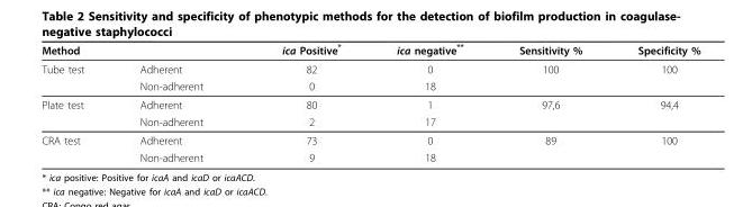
<table><thead><tr><td>Method</td><td></td><td>ica Positive*</td><td>ica negative**</td><td>Sensitivity %</td><td>Specificity %</td></tr></thead><tbody><tr><td rowspan="2">Tube test</td><td>Adherent</td><td>82</td><td>0</td><td>100</td><td>100</td></tr><tr><td>Non-adherent</td><td>0</td><td>18</td><td></td><td></td></tr><tr><td rowspan="2">Plate test</td><td>Adherent</td><td>80</td><td>1</td><td>97,6</td><td>94,4</td></tr><tr><td>Non-adherent</td><td>2</td><td>17</td><td></td><td></td></tr><tr><td rowspan="2">CRA test</td><td>Adherent</td><td>73</td><td>0</td><td>89</td><td>100</td></tr><tr><td>Non-adherent</td><td>9</td><td>18</td><td></td><td></td></tr></tbody></table>